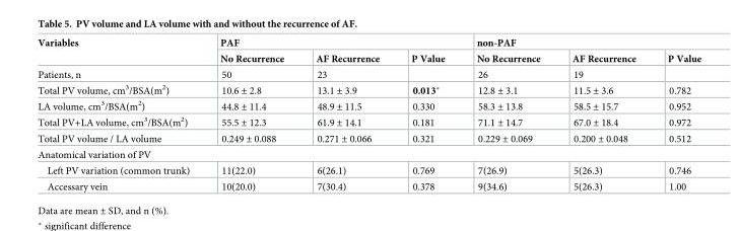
<table><thead><tr><td rowspan="2">Variables</td><td colspan="3">PAF</td><td colspan="3">non-PAF</td></tr><tr><td>No Recurrence</td><td>AF Recurrence</td><td>P Value</td><td>No Recurrence</td><td>AF Recurrence</td><td>P Value</td></tr></thead><tbody><tr><td>Patients, n</td><td>50</td><td>23</td><td></td><td>26</td><td>19</td><td></td></tr><tr><td>Total PV volume, cm<sup>3</sup>/BSA(m<sup>2</sup>)</td><td>10.6 ± 2.8</td><td>13.1 ± 3.9</td><td>0.013*</td><td>12.8 ± 3.1</td><td>11.5 ± 3.6</td><td>0.782</td></tr><tr><td>LA volume, cm<sup>3</sup>/BSA(m<sup>2</sup>)</td><td>44.8 ± 11.4</td><td>48.9 ± 11.5</td><td>0.330</td><td>58.3 ± 13.8</td><td>58.5 ± 15.7</td><td>0.952</td></tr><tr><td>Total PV+LA volume, cm<sup>3</sup>/BSA(m<sup>2</sup>)</td><td>55.5 ± 12.3</td><td>61.9 ± 14.1</td><td>0.181</td><td>71.1 ± 14.7</td><td>67.0 ± 18.4</td><td>0.972</td></tr><tr><td>Total PV volume / LA volume</td><td>0.249 ± 0.088</td><td>0.271 ± 0.066</td><td>0.321</td><td>0.229 ± 0.069</td><td>0.200 ± 0.048</td><td>0.512</td></tr><tr><td colspan="7">Anatomical variation of PV</td></tr><tr><td>Left PV variation (common trunk)</td><td>11(22.0)</td><td>6(26.1)</td><td>0.769</td><td>7(26.9)</td><td>5(26.3)</td><td>0.746</td></tr><tr><td>Accessary vein</td><td>10(20.0)</td><td>7(30.4)</td><td>0.378</td><td>9(34.6)</td><td>5(26.3)</td><td>1.00</td></tr></tbody></table>